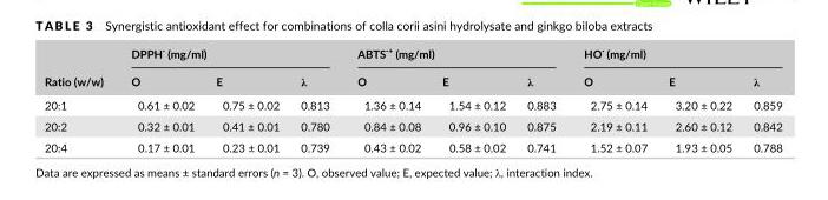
<table><thead><tr><td rowspan="2">Ratio (w/w)</td><td colspan="3">DPPH<sup>·</sup> (mg/ml)</td><td colspan="3">ABTS<sup>·+</sup> (mg/ml)</td><td colspan="3">HO<sup>·</sup> (mg/ml)</td></tr><tr><td>O</td><td>E</td><td>λ</td><td>O</td><td>E</td><td>λ</td><td>O</td><td>E</td><td>λ</td></tr></thead><tbody><tr><td>20:1</td><td>0.61 ± 0.02</td><td>0.75 ± 0.02</td><td>0.813</td><td>1.36 ± 0.14</td><td>1.54 ± 0.12</td><td>0.883</td><td>2.75 ± 0.14</td><td>3.20 ± 0.22</td><td>0.859</td></tr><tr><td>20:2</td><td>0.32 ± 0.01</td><td>0.41 ± 0.01</td><td>0.780</td><td>0.84 ± 0.08</td><td>0.96 ± 0.10</td><td>0.875</td><td>2.19 ± 0.11</td><td>2.60 ± 0.12</td><td>0.842</td></tr><tr><td>20:4</td><td>0.17 ± 0.01</td><td>0.23 ± 0.01</td><td>0.739</td><td>0.43 ± 0.02</td><td>0.58 ± 0.02</td><td>0.741</td><td>1.52 ± 0.07</td><td>1.93 ± 0.05</td><td>0.788</td></tr></tbody></table>